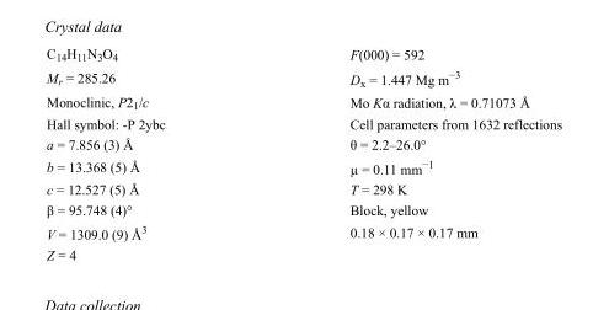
<table><tbody><tr><td>C<sub>14</sub>H<sub>11</sub>N<sub>3</sub>O<sub>4</sub></td><td>F(000) = 592</td></tr><tr><td>M<sub>r</sub> = 285.26</td><td>D<sub>x</sub> = 1.447 Mg m<sup>−3</sup></td></tr><tr><td>Monoclinic, P2<sub>1</sub>/c</td><td>Mo Kα radiation, λ = 0.71073 Å</td></tr><tr><td>Hall symbol: -P 2ybc</td><td>Cell parameters from 1632 reflections</td></tr><tr><td>a = 7.856 (3) Å</td><td>θ = 2.2–26.0°</td></tr><tr><td>b = 13.368 (5) Å</td><td>µ = 0.11 mm<sup>−1</sup></td></tr><tr><td>c = 12.527 (5) Å</td><td>T = 298 K</td></tr><tr><td>β = 95.748 (4)°</td><td>Block, yellow</td></tr><tr><td>V = 1309.0 (9) Å<sup>3</sup></td><td>0.18 × 0.17 × 0.17 mm</td></tr><tr><td>Z = 4</td><td></td></tr></tbody></table>